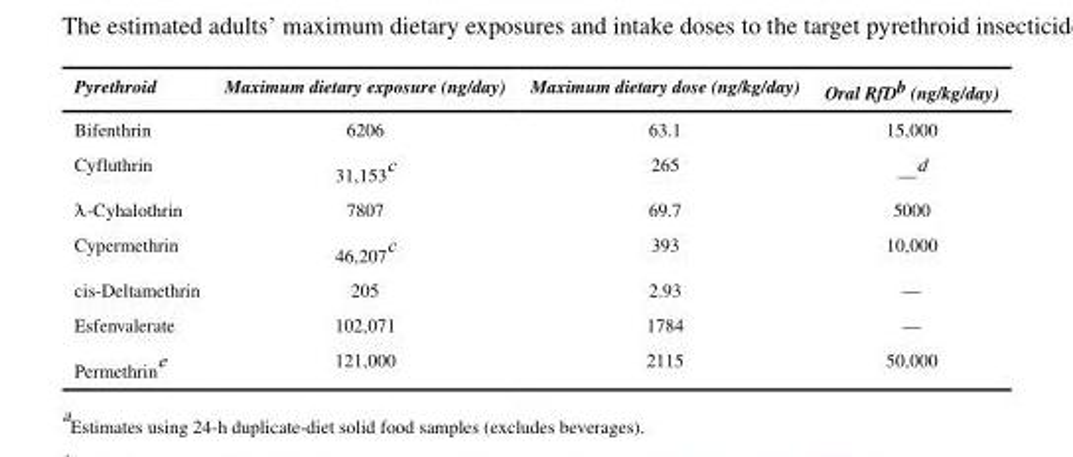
<table><thead><tr><td>Pyrethroid</td><td>Maximum dietary exposure (ng/day)</td><td>Maximum dietary dose (ng/kg/day)</td><td>Oral RfD<sup>b</sup> (ng/kg/day)</td></tr></thead><tbody><tr><td>Bifenthrin</td><td>6206</td><td>63.1</td><td>15,000</td></tr><tr><td>Cyfluthrin</td><td>31,153<sup>c</sup></td><td>265</td><td>—<sup>d</sup></td></tr><tr><td>λ-Cyhalothrin</td><td>7807</td><td>69.7</td><td>5000</td></tr><tr><td>Cypermethrin</td><td>46,207<sup>c</sup></td><td>393</td><td>10,000</td></tr><tr><td>cis-Deltamethrin</td><td>205</td><td>2.93</td><td>—</td></tr><tr><td>Esfenvalerate</td><td>102,071</td><td>1784</td><td>—</td></tr><tr><td>Permethrin<sup>e</sup></td><td>121,000</td><td>2115</td><td>50,000</td></tr></tbody></table>